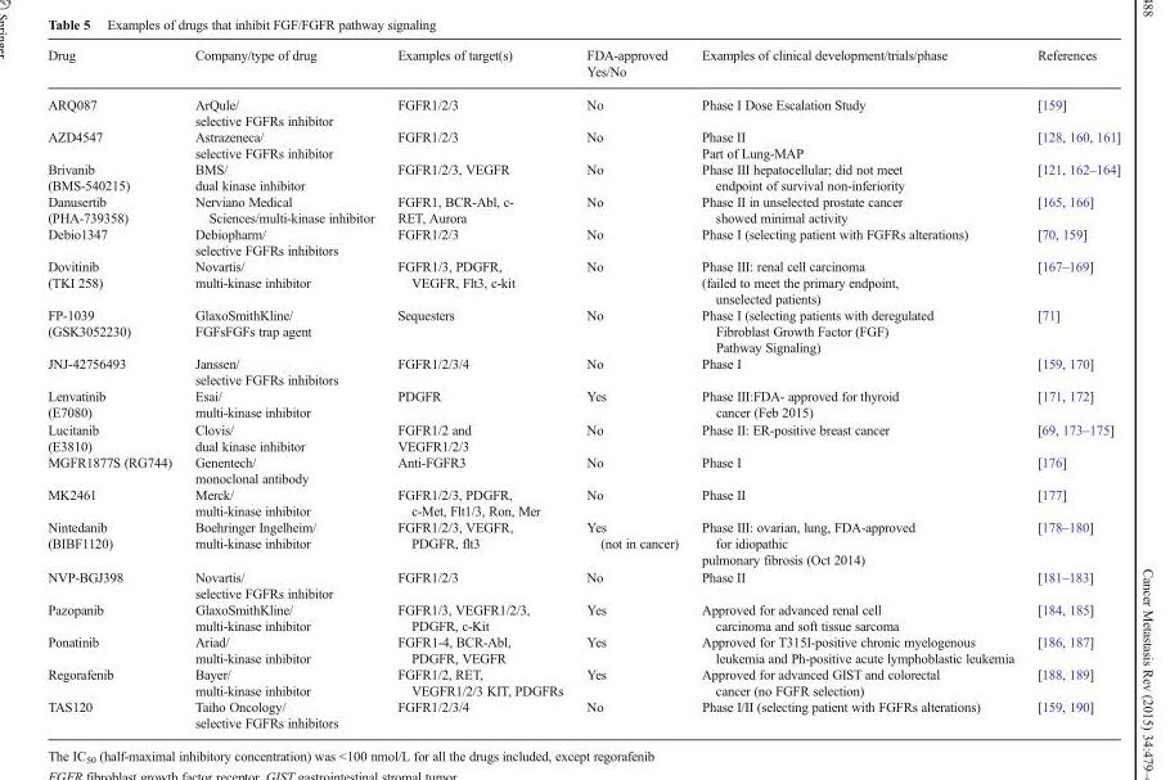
<table><thead><tr><td>Drug</td><td>Company/type of drug</td><td>Examples of target(s)</td><td>FDA-approved Yes/No</td><td>Examples of clinical development/trials/phase</td><td>References</td></tr></thead><tbody><tr><td>ARQ087</td><td>ArQule/ selective FGFRs inhibitor</td><td>FGFR1/2/3</td><td>No</td><td>Phase I Dose Escalation Study</td><td>[159]</td></tr><tr><td>AZD4547</td><td>Astrazeneca/ selective FGFRs inhibitor</td><td>FGFR1/2/3</td><td>No</td><td>Phase II Part of Lung-MAP</td><td>[128, 160, 161]</td></tr><tr><td>Brivanib (BMS-540215)</td><td>BMS/ dual kinase inhibitor</td><td>FGFR1/2/3, VEGFR</td><td>No</td><td>Phase III hepatocellular; did not meet endpoint of survival non-inferiority</td><td>[121, 162–164]</td></tr><tr><td>Danusertib (PHA-739358)</td><td>Nerviano Medical Sciences/multi-kinase inhibitor</td><td>FGFR1, BCR-Abl, c- RET, Aurora</td><td>No</td><td>Phase II in unselected prostate cancer showed minimal activity</td><td>[165, 166]</td></tr><tr><td>Debio1347</td><td>Debiopharm/ selective FGFRs inhibitors</td><td>FGFR1/2/3</td><td>No</td><td>Phase I (selecting patient with FGFRs alterations)</td><td>[70, 159]</td></tr><tr><td>Dovitinib (TKI 258)</td><td>Novartis/ multi-kinase inhibitor</td><td>FGFR1/3, PDGFR, VEGFR, Flt3, c-kit</td><td>No</td><td>Phase III: renal cell carcinoma (failed to meet the primary endpoint, unselected patients)</td><td>[167–169]</td></tr><tr><td>FP-1039 (GSK3052230)</td><td>GlaxoSmithKline/ FGFsFGFs trap agent</td><td>Sequesters</td><td>No</td><td>Phase I (selecting patients with deregulated Fibroblast Growth Factor (FGF) Pathway Signaling)</td><td>[71]</td></tr><tr><td>JNJ-42756493</td><td>Janssen/ selective FGFRs inhibitors</td><td>FGFR1/2/3/4</td><td>No</td><td>Phase I</td><td>[159, 170]</td></tr><tr><td>Lenvatinib (E7080)</td><td>Esai/ multi-kinase inhibitor</td><td>PDGFR</td><td>Yes</td><td>Phase III:FDA- approved for thyroid cancer (Feb 2015)</td><td>[171, 172]</td></tr><tr><td>Lucitanib (E3810)</td><td>Clovis/ dual kinase inhibitor</td><td>FGFR1/2 and VEGFR1/2/3</td><td>No</td><td>Phase II: ER-positive breast cancer</td><td>[69, 173–175]</td></tr><tr><td>MGFR1877S (RG744)</td><td>Genentech/ monoclonal antibody</td><td>Anti-FGFR3</td><td>No</td><td>Phase I</td><td>[176]</td></tr><tr><td>MK2461</td><td>Merck/ multi-kinase inhibitor</td><td>FGFR1/2/3, PDGFR, c-Met, Flt1/3, Ron, Mer</td><td>No</td><td>Phase II</td><td>[177]</td></tr><tr><td>Nintedanib (BIBF1120)</td><td>Boehringer Ingelheim/ multi-kinase inhibitor</td><td>FGFR1/2/3, VEGFR, PDGFR, flt3</td><td>Yes (not in cancer)</td><td>Phase III: ovarian, lung, FDA-approved for idiopathic pulmonary fibrosis (Oct 2014)</td><td>[178–180]</td></tr><tr><td>NVP-BGJ398</td><td>Novartis/ selective FGFRs inhibitor</td><td>FGFR1/2/3</td><td>No</td><td>Phase II</td><td>[181–183]</td></tr><tr><td>Pazopanib</td><td>GlaxoSmithKline/ multi-kinase inhibitor</td><td>FGFR1/3, VEGFR1/2/3, PDGFR, c-Kit</td><td>Yes</td><td>Approved for advanced renal cell carcinoma and soft tissue sarcoma</td><td>[184, 185]</td></tr><tr><td>Ponatinib</td><td>Ariad/ multi-kinase inhibitor</td><td>FGFR1-4, BCR-Abl, PDGFR, VEGFR</td><td>Yes</td><td>Approved for T315I-positive chronic myelogenous leukemia and Ph-positive acute lymphoblastic leukemia</td><td>[186, 187]</td></tr><tr><td>Regorafenib</td><td>Bayer/ multi-kinase inhibitor</td><td>FGFR1/2, RET, VEGFR1/2/3 KIT, PDGFRs</td><td>Yes</td><td>Approved for advanced GIST and colorectal cancer (no FGFR selection)</td><td>[188, 189]</td></tr><tr><td>TAS120</td><td>Taiho Oncology/ selective FGFRs inhibitors</td><td>FGFR1/2/3/4</td><td>No</td><td>Phase I/II (selecting patient with FGFRs alterations)</td><td>[159, 190]</td></tr></tbody></table>